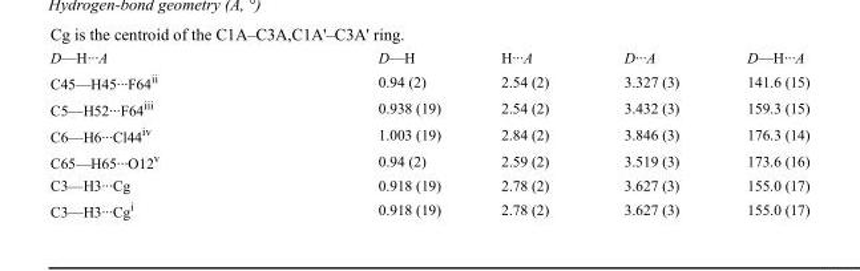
<table><tbody><tr><td>D—H···A</td><td>D—H</td><td>H···A</td><td>D···A</td><td>D—H···A</td></tr><tr><td>C45—H45···F64<sup>ii</sup></td><td>0.94 (2)</td><td>2.54 (2)</td><td>3.327 (3)</td><td>141.6 (15)</td></tr><tr><td>C5—H52···F64<sup>iii</sup></td><td>0.938 (19)</td><td>2.54 (2)</td><td>3.432 (3)</td><td>159.3 (15)</td></tr><tr><td>C6—H6···Cl44<sup>iv</sup></td><td>1.003 (19)</td><td>2.84 (2)</td><td>3.846 (3)</td><td>176.3 (14)</td></tr><tr><td>C65—H65···O12<sup>v</sup></td><td>0.94 (2)</td><td>2.59 (2)</td><td>3.519 (3)</td><td>173.6 (16)</td></tr><tr><td>C3—H3···Cg</td><td>0.918 (19)</td><td>2.78 (2)</td><td>3.627 (3)</td><td>155.0 (17)</td></tr><tr><td>C3—H3···Cg<sup>i</sup></td><td>0.918 (19)</td><td>2.78 (2)</td><td>3.627 (3)</td><td>155.0 (17)</td></tr></tbody></table>